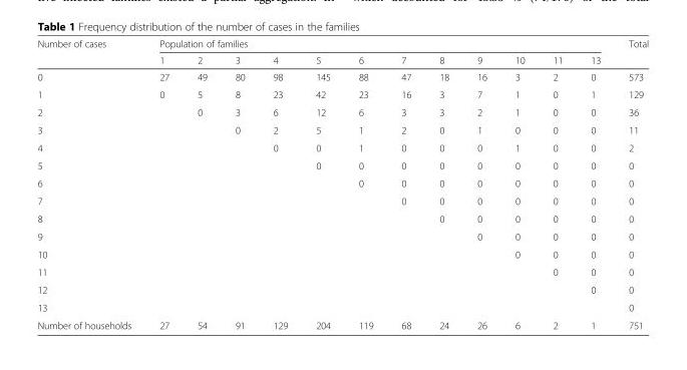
<table><thead><tr><td rowspan="2">Number of cases</td><td colspan="12">Population of families</td><td rowspan="2">Total</td></tr><tr><td>1</td><td>2</td><td>3</td><td>4</td><td>5</td><td>6</td><td>7</td><td>8</td><td>9</td><td>10</td><td>11</td><td>13</td></tr></thead><tbody><tr><td>0</td><td>27</td><td>49</td><td>80</td><td>98</td><td>145</td><td>88</td><td>47</td><td>18</td><td>16</td><td>3</td><td>2</td><td>0</td><td>573</td></tr><tr><td>1</td><td>0</td><td>5</td><td>8</td><td>23</td><td>42</td><td>23</td><td>16</td><td>3</td><td>7</td><td>1</td><td>0</td><td>1</td><td>129</td></tr><tr><td>2</td><td></td><td>0</td><td>3</td><td>6</td><td>12</td><td>6</td><td>3</td><td>3</td><td>2</td><td>1</td><td>0</td><td>0</td><td>36</td></tr><tr><td>3</td><td></td><td></td><td>0</td><td>2</td><td>5</td><td>1</td><td>2</td><td>0</td><td>1</td><td>0</td><td>0</td><td>0</td><td>11</td></tr><tr><td>4</td><td></td><td></td><td></td><td>0</td><td>0</td><td>1</td><td>0</td><td>0</td><td>0</td><td>1</td><td>0</td><td>0</td><td>2</td></tr><tr><td>5</td><td></td><td></td><td></td><td></td><td>0</td><td>0</td><td>0</td><td>0</td><td>0</td><td>0</td><td>0</td><td>0</td><td>0</td></tr><tr><td>6</td><td></td><td></td><td></td><td></td><td></td><td>0</td><td>0</td><td>0</td><td>0</td><td>0</td><td>0</td><td>0</td><td>0</td></tr><tr><td>7</td><td></td><td></td><td></td><td></td><td></td><td></td><td>0</td><td>0</td><td>0</td><td>0</td><td>0</td><td>0</td><td>0</td></tr><tr><td>8</td><td></td><td></td><td></td><td></td><td></td><td></td><td></td><td>0</td><td>0</td><td>0</td><td>0</td><td>0</td><td>0</td></tr><tr><td>9</td><td></td><td></td><td></td><td></td><td></td><td></td><td></td><td></td><td>0</td><td>0</td><td>0</td><td>0</td><td>0</td></tr><tr><td>10</td><td></td><td></td><td></td><td></td><td></td><td></td><td></td><td></td><td></td><td>0</td><td>0</td><td>0</td><td>0</td></tr><tr><td>11</td><td></td><td></td><td></td><td></td><td></td><td></td><td></td><td></td><td></td><td></td><td>0</td><td>0</td><td>0</td></tr><tr><td>12</td><td></td><td></td><td></td><td></td><td></td><td></td><td></td><td></td><td></td><td></td><td></td><td>0</td><td>0</td></tr><tr><td>13</td><td></td><td></td><td></td><td></td><td></td><td></td><td></td><td></td><td></td><td></td><td></td><td></td><td>0</td></tr><tr><td>Number of households</td><td>27</td><td>54</td><td>91</td><td>129</td><td>204</td><td>119</td><td>68</td><td>24</td><td>26</td><td>6</td><td>2</td><td>1</td><td>751</td></tr></tbody></table>